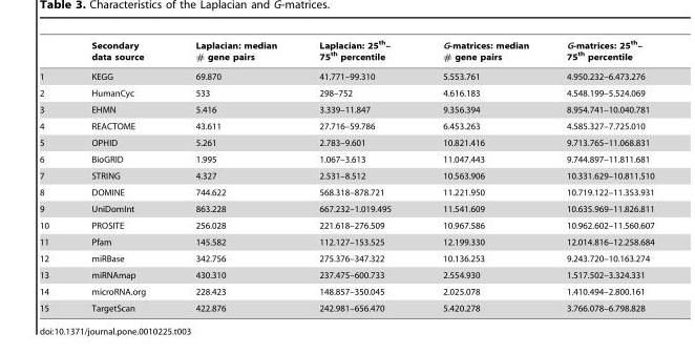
<table><thead><tr><td></td><td>Secondary data source</td><td>Laplacian: median # gene pairs</td><td>Laplacian: 25<sup>th</sup>– 75<sup>th</sup> percentile</td><td>G-matrices: median # gene pairs</td><td>G-matrices: 25<sup>th</sup>– 75<sup>th</sup> percentile</td></tr></thead><tbody><tr><td>1</td><td>KEGG</td><td>69.870</td><td>41.771–99.310</td><td>5.553.761</td><td>4.950.232–6.473.276</td></tr><tr><td>2</td><td>HumanCyc</td><td>533</td><td>298–752</td><td>4.616.183</td><td>4.548.199–5.524.069</td></tr><tr><td>3</td><td>EHMN</td><td>5.416</td><td>3.339–11.847</td><td>9.356.394</td><td>8.954.741–10.040.781</td></tr><tr><td>4</td><td>REACTOME</td><td>43.611</td><td>27.716–59.786</td><td>6.453.263</td><td>4.585.327–7.725.010</td></tr><tr><td>5</td><td>OPHID</td><td>5.261</td><td>2.783–9.601</td><td>10.821.416</td><td>9.713.765–11.068.831</td></tr><tr><td>6</td><td>BioGRID</td><td>1.995</td><td>1.067–3.613</td><td>11.047.443</td><td>9.744.897–11.811.681</td></tr><tr><td>7</td><td>STRING</td><td>4.327</td><td>2.531–8.512</td><td>10.563.906</td><td>10.331.629–10.811.510</td></tr><tr><td>8</td><td>DOMINE</td><td>744.622</td><td>568.318–878.721</td><td>11.221.950</td><td>10.719.122–11.353.931</td></tr><tr><td>9</td><td>UniDomInt</td><td>863.228</td><td>667.232–1.019.495</td><td>11.541.609</td><td>10.635.969–11.826.811</td></tr><tr><td>10</td><td>PROSITE</td><td>256.028</td><td>221.618–276.509</td><td>10.967.586</td><td>10.962.602–11.560.607</td></tr><tr><td>11</td><td>Pfam</td><td>145.582</td><td>112.127–153.525</td><td>12.199.330</td><td>12.014.816–12.258.684</td></tr><tr><td>12</td><td>miRBase</td><td>342.756</td><td>275.376–347.322</td><td>10.136.253</td><td>9.243.720–10.163.274</td></tr><tr><td>13</td><td>miRNAmap</td><td>430.310</td><td>237.475–600.733</td><td>2.554.930</td><td>1.517.502–3.324.331</td></tr><tr><td>14</td><td>microRNA.org</td><td>228.423</td><td>148.857–350.045</td><td>2.025.078</td><td>1.410.494–2.800.161</td></tr><tr><td>15</td><td>TargetScan</td><td>422.876</td><td>242.981–656.470</td><td>5.420.278</td><td>3.766.078–6.798.828</td></tr></tbody></table>